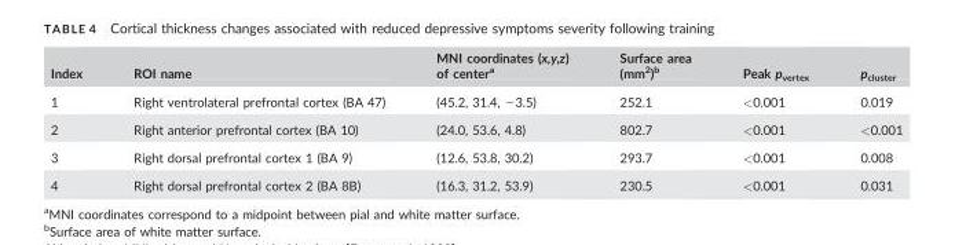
<table><thead><tr><td>Index</td><td>ROI name</td><td>MNI coordinates (x,y,z) of center<sup>a</sup></td><td>Surface area (mm<sup>2</sup>)<sup>b</sup></td><td>Peak p<sub>vertex</sub></td><td>p<sub>cluster</sub></td></tr></thead><tbody><tr><td>1</td><td>Right ventrolateral prefrontal cortex (BA 47)</td><td>(45.2, 31.4, −3.5)</td><td>252.1</td><td>&lt;0.001</td><td>0.019</td></tr><tr><td>2</td><td>Right anterior prefrontal cortex (BA 10)</td><td>(24.0, 53.6, 4.8)</td><td>802.7</td><td>&lt;0.001</td><td>&lt;0.001</td></tr><tr><td>3</td><td>Right dorsal prefrontal cortex 1 (BA 9)</td><td>(12.6, 53.8, 30.2)</td><td>293.7</td><td>&lt;0.001</td><td>0.008</td></tr><tr><td>4</td><td>Right dorsal prefrontal cortex 2 (BA 8B)</td><td>(16.3, 31.2, 53.9)</td><td>230.5</td><td>&lt;0.001</td><td>0.031</td></tr></tbody></table>